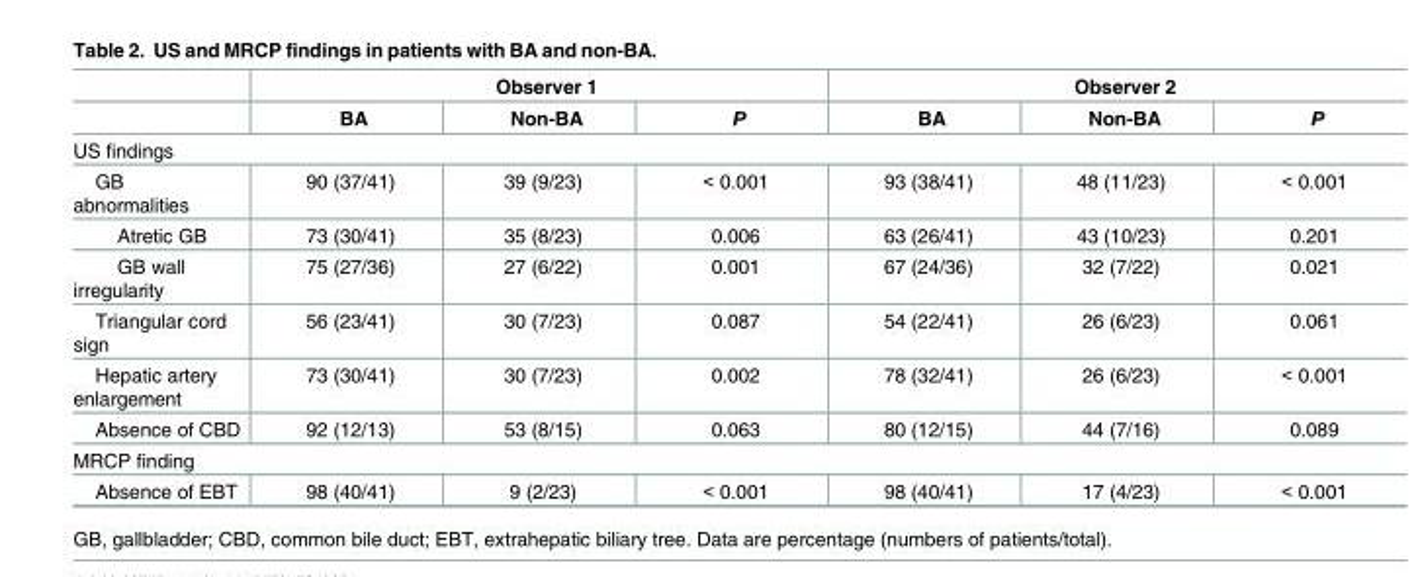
<table><thead><tr><td rowspan="2"></td><td colspan="3">Observer 1</td><td colspan="3">Observer 2</td></tr><tr><td>BA</td><td>Non-BA</td><td>P</td><td>BA</td><td>Non-BA</td><td>P</td></tr></thead><tbody><tr><td colspan="7">US findings</td></tr><tr><td>GB abnormalities</td><td>90 (37/41)</td><td>39 (9/23)</td><td>&lt; 0.001</td><td>93 (38/41)</td><td>48 (11/23)</td><td>&lt; 0.001</td></tr><tr><td>Atretic GB</td><td>73 (30/41)</td><td>35 (8/23)</td><td>0.006</td><td>63 (26/41)</td><td>43 (10/23)</td><td>0.201</td></tr><tr><td>GB wall irregularity</td><td>75 (27/36)</td><td>27 (6/22)</td><td>0.001</td><td>67 (24/36)</td><td>32 (7/22)</td><td>0.021</td></tr><tr><td>Triangular cord sign</td><td>56 (23/41)</td><td>30 (7/23)</td><td>0.087</td><td>54 (22/41)</td><td>26 (6/23)</td><td>0.061</td></tr><tr><td>Hepatic artery enlargement</td><td>73 (30/41)</td><td>30 (7/23)</td><td>0.002</td><td>78 (32/41)</td><td>26 (6/23)</td><td>&lt; 0.001</td></tr><tr><td>Absence of CBD</td><td>92 (12/13)</td><td>53 (8/15)</td><td>0.063</td><td>80 (12/15)</td><td>44 (7/16)</td><td>0.089</td></tr><tr><td colspan="7">MRCP finding</td></tr><tr><td>Absence of EBT</td><td>98 (40/41)</td><td>9 (2/23)</td><td>&lt; 0.001</td><td>98 (40/41)</td><td>17 (4/23)</td><td>&lt; 0.001</td></tr></tbody></table>